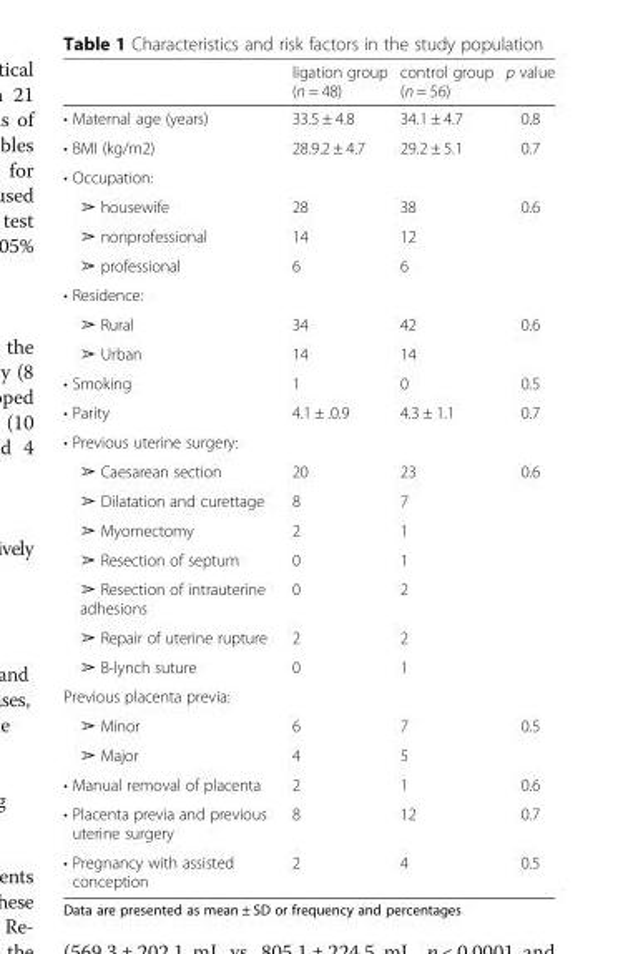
<table><thead><tr><td></td><td>ligation group (n = 48)</td><td>control group (n = 56)</td><td>p value</td></tr></thead><tbody><tr><td>• Maternal age (years)</td><td>33.5 ± 4.8</td><td>34.1 ± 4.7</td><td>0.8</td></tr><tr><td>• BMI (kg/m2)</td><td>28.9.2 ± 4.7</td><td>29.2 ± 5.1</td><td>0.7</td></tr><tr><td colspan="4">• Occupation:</td></tr><tr><td>➢ housewife</td><td>28</td><td>38</td><td rowspan="3">0.6</td></tr><tr><td>➢ nonprofessional</td><td>14</td><td>12</td></tr><tr><td>➢ professional</td><td>6</td><td>6</td></tr><tr><td colspan="4">• Residence:</td></tr><tr><td>➢ Rural</td><td>34</td><td>42</td><td rowspan="2">0.6</td></tr><tr><td>➢ Urban</td><td>14</td><td>14</td></tr><tr><td>• Smoking</td><td>1</td><td>0</td><td>0.5</td></tr><tr><td>• Parity</td><td>4.1 ± .0.9</td><td>4.3 ± 1.1</td><td>0.7</td></tr><tr><td colspan="4">• Previous uterine surgery:</td></tr><tr><td>➢ Caesarean section</td><td>20</td><td>23</td><td rowspan="7">0.6</td></tr><tr><td>➢ Dilatation and curettage</td><td>8</td><td>7</td></tr><tr><td>➢ Myomectomy</td><td>2</td><td>1</td></tr><tr><td>➢ Resection of septum</td><td>0</td><td>1</td></tr><tr><td>➢ Resection of intrauterine adhesions</td><td>0</td><td>2</td></tr><tr><td>➢ Repair of uterine rupture</td><td>2</td><td>2</td></tr><tr><td>➢ B-lynch suture</td><td>0</td><td>1</td></tr><tr><td colspan="4">Previous placenta previa:</td></tr><tr><td>➢ Minor</td><td>6</td><td>7</td><td rowspan="2">0.5</td></tr><tr><td>➢ Major</td><td>4</td><td>5</td></tr><tr><td>• Manual removal of placenta</td><td>2</td><td>1</td><td>0.6</td></tr><tr><td>• Placenta previa and previous uterine surgery</td><td>8</td><td>12</td><td>0.7</td></tr><tr><td>• Pregnancy with assisted conception</td><td>2</td><td>4</td><td>0.5</td></tr></tbody></table>